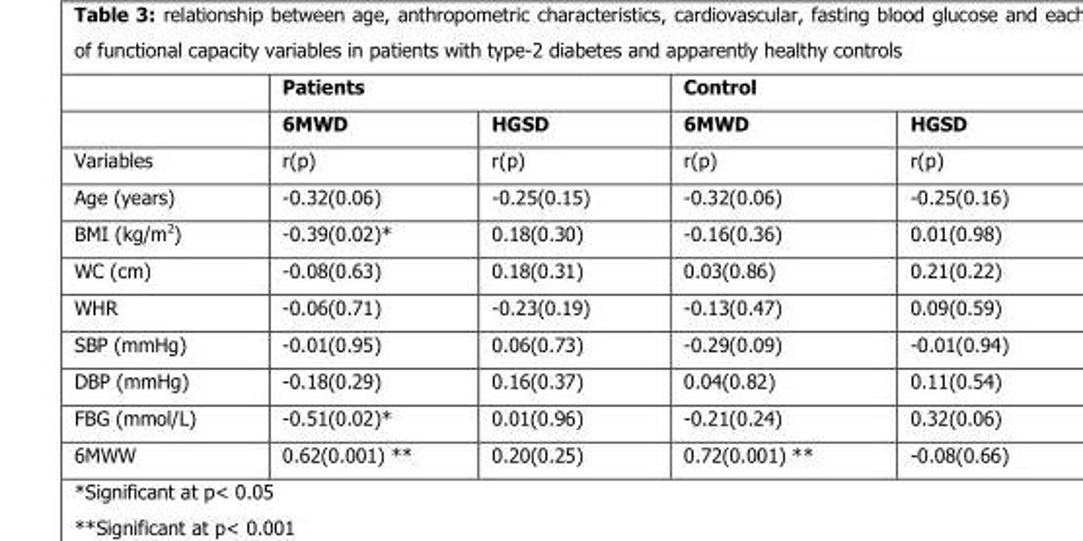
<table><thead><tr><td rowspan="2"></td><td colspan="2">Patients</td><td colspan="2">Control</td></tr><tr><td>6MWD</td><td>HGSD</td><td>6MWD</td><td>HGSD</td></tr></thead><tbody><tr><td>Variables</td><td>r(p)</td><td>r(p)</td><td>r(p)</td><td>r(p)</td></tr><tr><td>Age (years)</td><td>-0.32(0.06)</td><td>-0.25(0.15)</td><td>-0.32(0.06)</td><td>-0.25(0.16)</td></tr><tr><td>BMI (kg/m<sup>2</sup>)</td><td>-0.39(0.02)*</td><td>0.18(0.30)</td><td>-0.16(0.36)</td><td>0.01(0.98)</td></tr><tr><td>WC (cm)</td><td>-0.08(0.63)</td><td>0.18(0.31)</td><td>0.03(0.86)</td><td>0.21(0.22)</td></tr><tr><td>WHR</td><td>-0.06(0.71)</td><td>-0.23(0.19)</td><td>-0.13(0.47)</td><td>0.09(0.59)</td></tr><tr><td>SBP (mmHg)</td><td>-0.01(0.95)</td><td>0.06(0.73)</td><td>-0.29(0.09)</td><td>-0.01(0.94)</td></tr><tr><td>DBP (mmHg)</td><td>-0.18(0.29)</td><td>0.16(0.37)</td><td>0.04(0.82)</td><td>0.11(0.54)</td></tr><tr><td>FBG (mmol/L)</td><td>-0.51(0.02)*</td><td>0.01(0.96)</td><td>-0.21(0.24)</td><td>0.32(0.06)</td></tr><tr><td>6MWW</td><td>0.62(0.001) **</td><td>0.20(0.25)</td><td>0.72(0.001) **</td><td>-0.08(0.66)</td></tr></tbody></table>